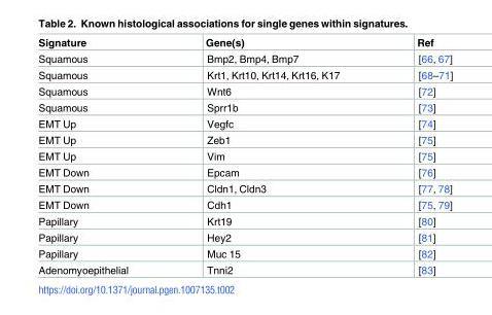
<table><thead><tr><td>Signature</td><td>Gene(s)</td><td>Ref</td></tr></thead><tbody><tr><td>Squamous</td><td>Bmp2, Bmp4, Bmp7</td><td>[66, 67]</td></tr><tr><td>Squamous</td><td>Krt1, Krt10, Krt14, Krt16, K17</td><td>[68–71]</td></tr><tr><td>Squamous</td><td>Wnt6</td><td>[72]</td></tr><tr><td>Squamous</td><td>Sprr1b</td><td>[73]</td></tr><tr><td>EMT Up</td><td>Vegfc</td><td>[74]</td></tr><tr><td>EMT Up</td><td>Zeb1</td><td>[75]</td></tr><tr><td>EMT Up</td><td>Vim</td><td>[75]</td></tr><tr><td>EMT Down</td><td>Epcam</td><td>[76]</td></tr><tr><td>EMT Down</td><td>Cldn1, Cldn3</td><td>[77, 78]</td></tr><tr><td>EMT Down</td><td>Cdh1</td><td>[75, 79]</td></tr><tr><td>Papillary</td><td>Krt19</td><td>[80]</td></tr><tr><td>Papillary</td><td>Hey2</td><td>[81]</td></tr><tr><td>Papillary</td><td>Muc 15</td><td>[82]</td></tr><tr><td>Adenomyoepithelial</td><td>Tnni2</td><td>[83]</td></tr></tbody></table>